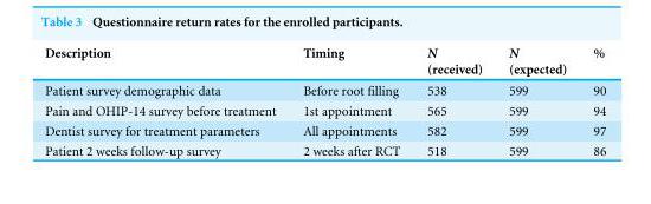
<table><thead><tr><td>Description</td><td>Timing</td><td>N (received)</td><td>N (expected)</td><td>%</td></tr></thead><tbody><tr><td>Patient survey demographic data</td><td>Before root filling</td><td>538</td><td>599</td><td>90</td></tr><tr><td>Pain and OHIP-14 survey before treatment</td><td>1st appointment</td><td>565</td><td>599</td><td>94</td></tr><tr><td>Dentist survey for treatment parameters</td><td>All appointments</td><td>582</td><td>599</td><td>97</td></tr><tr><td>Patient 2 weeks follow-up survey</td><td>2 weeks after RCT</td><td>518</td><td>599</td><td>86</td></tr></tbody></table>